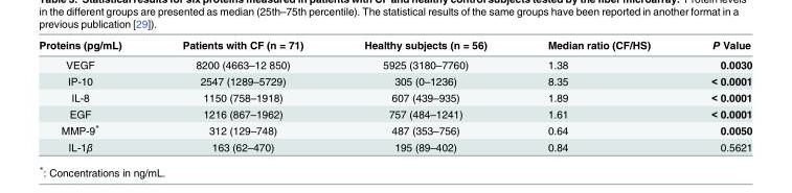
<table><thead><tr><td>Proteins (pg/mL)</td><td>Patients with CF (n = 71)</td><td>Healthy subjects (n = 56)</td><td>Median ratio (CF/HS)</td><td>P Value</td></tr></thead><tbody><tr><td>VEGF</td><td>8200 (4663–12 850)</td><td>5925 (3180–7760)</td><td>1.38</td><td>0.0030</td></tr><tr><td>IP-10</td><td>2547 (1289–5729)</td><td>305 (0–1236)</td><td>8.35</td><td>&lt; 0.0001</td></tr><tr><td>IL-8</td><td>1150 (758–1918)</td><td>607 (439–935)</td><td>1.89</td><td>&lt; 0.0001</td></tr><tr><td>EGF</td><td>1216 (867–1962)</td><td>757 (484–1241)</td><td>1.61</td><td>&lt; 0.0001</td></tr><tr><td>MMP-9*</td><td>312 (129–748)</td><td>487 (353–756)</td><td>0.64</td><td>0.0050</td></tr><tr><td>IL-1β</td><td>163 (62–470)</td><td>195 (89–402)</td><td>0.84</td><td>0.5621</td></tr></tbody></table>